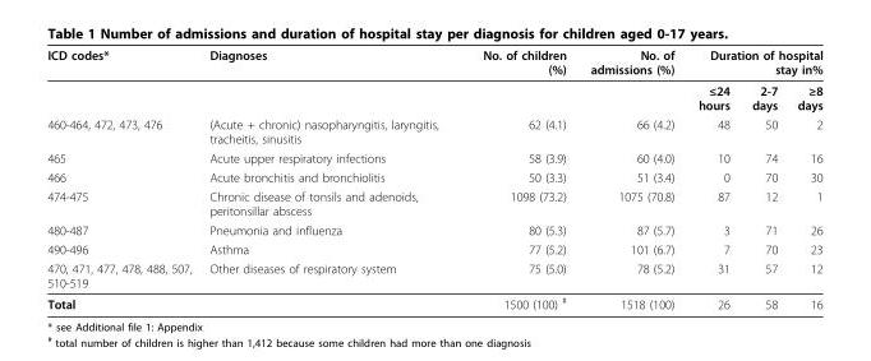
<table><thead><tr><td rowspan="2">ICD codes*</td><td rowspan="2">Diagnoses</td><td rowspan="2">No. of children (%)</td><td rowspan="2">No. of admissions (%)</td><td colspan="3">Duration of hospital stay in%</td></tr><tr><td>≤24 hours</td><td>2-7 days</td><td>≥8 days</td></tr></thead><tbody><tr><td>460-464, 472, 473, 476</td><td>(Acute + chronic) nasopharyngitis, laryngitis, tracheitis, sinusitis</td><td>62 (4.1)</td><td>66 (4.2)</td><td>48</td><td>50</td><td>2</td></tr><tr><td>465</td><td>Acute upper respiratory infections</td><td>58 (3.9)</td><td>60 (4.0)</td><td>10</td><td>74</td><td>16</td></tr><tr><td>466</td><td>Acute bronchitis and bronchiolitis</td><td>50 (3.3)</td><td>51 (3.4)</td><td>0</td><td>70</td><td>30</td></tr><tr><td>474-475</td><td>Chronic disease of tonsils and adenoids, peritonsillar abscess</td><td>1098 (73.2)</td><td>1075 (70.8)</td><td>87</td><td>12</td><td>1</td></tr><tr><td>480-487</td><td>Pneumonia and influenza</td><td>80 (5.3)</td><td>87 (5.7)</td><td>3</td><td>71</td><td>26</td></tr><tr><td>490-496</td><td>Asthma</td><td>77 (5.2)</td><td>101 (6.7)</td><td>7</td><td>70</td><td>23</td></tr><tr><td>470, 471, 477, 478, 488, 507, 510-519</td><td>Other diseases of respiratory system</td><td>75 (5.0)</td><td>78 (5.2)</td><td>31</td><td>57</td><td>12</td></tr><tr><td>Total</td><td></td><td>1500 (100) <sup>#</sup></td><td>1518 (100)</td><td>26</td><td>58</td><td>16</td></tr></tbody></table>